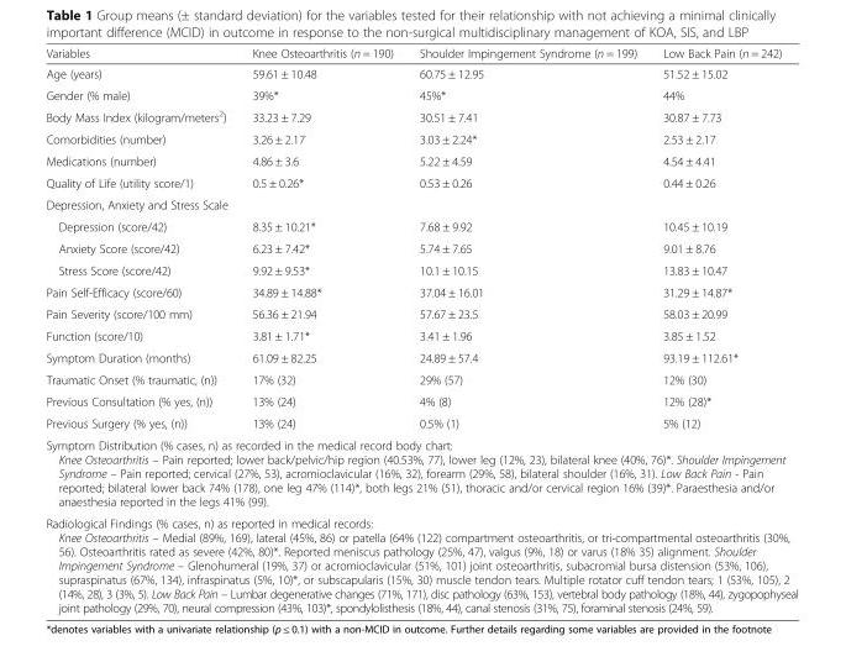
<table><thead><tr><td>Variables</td><td>Knee Osteoarthritis (n = 190)</td><td>Shoulder Impingement Syndrome (n = 199)</td><td>Low Back Pain (n = 242)</td></tr></thead><tbody><tr><td>Age (years)</td><td>59.61 ± 10.48</td><td>60.75 ± 12.95</td><td>51.52 ± 15.02</td></tr><tr><td>Gender (% male)</td><td>39%*</td><td>45%*</td><td>44%</td></tr><tr><td>Body Mass Index (kilogram/meters<sup>2</sup>)</td><td>33.23 ± 7.29</td><td>30.51 ± 7.41</td><td>30.87 ± 7.73</td></tr><tr><td>Comorbidities (number)</td><td>3.26 ± 2.17</td><td>3.03 ± 2.24*</td><td>2.53 ± 2.17</td></tr><tr><td>Medications (number)</td><td>4.86 ± 3.6</td><td>5.22 ± 4.59</td><td>4.54 ± 4.41</td></tr><tr><td>Quality of Life (utility score/1)</td><td>0.5 ± 0.26*</td><td>0.53 ± 0.26</td><td>0.44 ± 0.26</td></tr><tr><td colspan="4">Depression, Anxiety and Stress Scale</td></tr><tr><td>Depression (score/42)</td><td>8.35 ± 10.21*</td><td>7.68 ± 9.92</td><td>10.45 ± 10.19</td></tr><tr><td>Anxiety Score (score/42)</td><td>6.23 ± 7.42*</td><td>5.74 ± 7.65</td><td>9.01 ± 8.76</td></tr><tr><td>Stress Score (score/42)</td><td>9.92 ± 9.53*</td><td>10.1 ± 10.15</td><td>13.83 ± 10.47</td></tr><tr><td>Pain Self-Efficacy (score/60)</td><td>34.89 ± 14.88*</td><td>37.04 ± 16.01</td><td>31.29 ± 14.87*</td></tr><tr><td>Pain Severity (score/100 mm)</td><td>56.36 ± 21.94</td><td>57.67 ± 23.5</td><td>58.03 ± 20.99</td></tr><tr><td>Function (score/10)</td><td>3.81 ± 1.71*</td><td>3.41 ± 1.96</td><td>3.85 ± 1.52</td></tr><tr><td>Symptom Duration (months)</td><td>61.09 ± 82.25</td><td>24.89 ± 57.4</td><td>93.19 ± 112.61*</td></tr><tr><td>Traumatic Onset (% traumatic, (n))</td><td>17% (32)</td><td>29% (57)</td><td>12% (30)</td></tr><tr><td>Previous Consultation (% yes, (n))</td><td>13% (24)</td><td>4% (8)</td><td>12% (28)*</td></tr><tr><td>Previous Surgery (% yes, (n))</td><td>13% (24)</td><td>0.5% (1)</td><td>5% (12)</td></tr><tr><td colspan="4">Symptom Distribution (% cases, n) as recorded in the medical record body chart: Knee Osteoarthritis – Pain reported; lower back/pelvic/hip region (40.53%, 77), lower leg (12%, 23), bilateral knee (40%, 76)*. Shoulder Impingement Syndrome – Pain reported; cervical (27%, 53), acromioclavicular (16%, 32), forearm (29%, 58), bilateral shoulder (16%, 31). Low Back Pain - Pain reported; bilateral lower back 74% (178), one leg 47% (114)*, both legs 21% (51), thoracic and/or cervical region 16% (39)*. Paraesthesia and/or anaesthesia reported in the legs 41% (99).</td></tr><tr><td colspan="4">Radiological Findings (% cases, n) as reported in medical records: Knee Osteoarthritis – Medial (89%, 169), lateral (45%, 86) or patella (64% (122) compartment osteoarthritis, or tri-compartmental osteoarthritis (30%, 56). Osteoarthritis rated as severe (42%, 80)*. Reported meniscus pathology (25%, 47), valgus (9%, 18) or varus (18% 35) alignment. Shoulder Impingement Syndrome – Glenohumeral (19%, 37) or acromioclavicular (51%, 101) joint osteoarthritis, subacromial bursa distension (53%, 106), supraspinatus (67%, 134), infraspinatus (5%, 10)*, or subscapularis (15%, 30) muscle tendon tears. Multiple rotator cuff tendon tears; 1 (53%, 105), 2 (14%, 28), 3 (3%, 5). Low Back Pain – Lumbar degenerative changes (71%, 171), disc pathology (63%, 153), vertebral body pathology (18%, 44), zygopophyseal joint pathology (29%, 70), neural compression (43%, 103)*, spondylolisthesis (18%, 44), canal stenosis (31%, 75), foraminal stenosis (24%, 59).</td></tr></tbody></table>